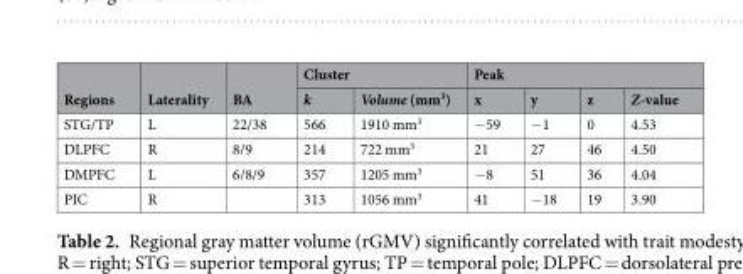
<table><thead><tr><td rowspan="2">Regions</td><td rowspan="2">Laterality</td><td rowspan="2">BA</td><td colspan="2">Cluster</td><td colspan="4">Peak</td></tr><tr><td>k</td><td>Volume (mm<sup>3</sup>)</td><td>x</td><td>y</td><td>z</td><td>Z-value</td></tr></thead><tbody><tr><td>STG/TP</td><td>L</td><td>22/38</td><td>566</td><td>1910 mm<sup>3</sup></td><td>−59</td><td>−1</td><td>0</td><td>4.53</td></tr><tr><td>DLPFC</td><td>R</td><td>8/9</td><td>214</td><td>722 mm<sup>3</sup></td><td>21</td><td>27</td><td>46</td><td>4.50</td></tr><tr><td>DMPFC</td><td>L</td><td>6/8/9</td><td>357</td><td>1205 mm<sup>3</sup></td><td>−8</td><td>51</td><td>36</td><td>4.04</td></tr><tr><td>PIC</td><td>R</td><td></td><td>313</td><td>1056 mm<sup>3</sup></td><td>41</td><td>−18</td><td>19</td><td>3.90</td></tr></tbody></table>